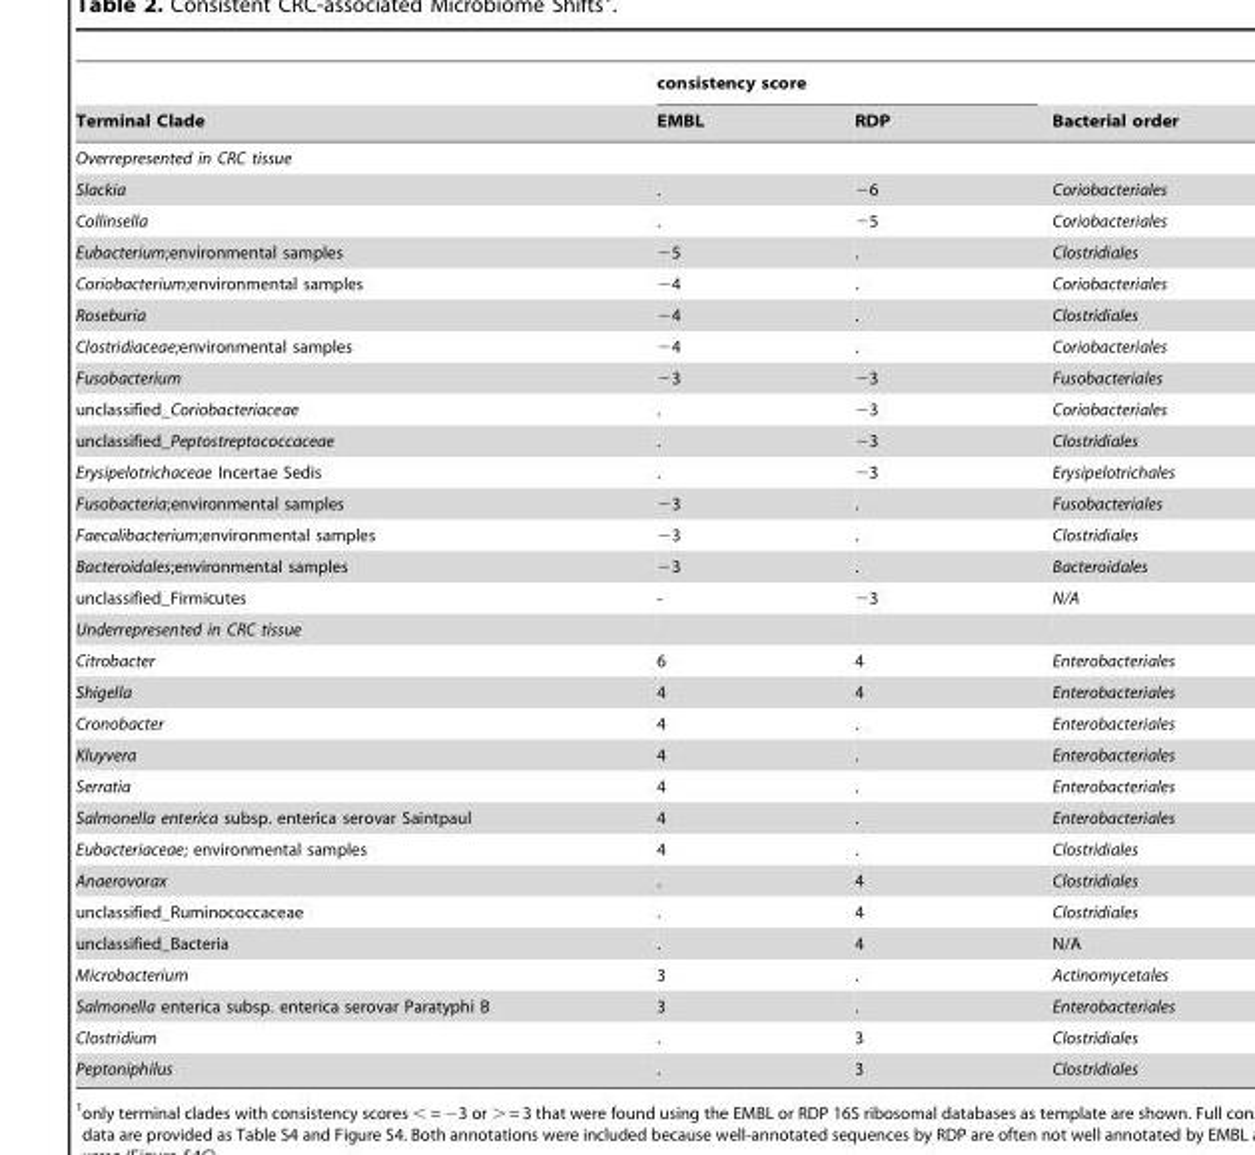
<table><thead><tr><td rowspan="2">Terminal Clade</td><td colspan="2">consistency score</td><td rowspan="2">Bacterial order</td></tr><tr><td>EMBL</td><td>RDP</td></tr></thead><tbody><tr><td colspan="4">Overrepresented in CRC tissue</td></tr><tr><td>Slackia</td><td>.</td><td>−6</td><td>Coriobacteriales</td></tr><tr><td>Collinsella</td><td>.</td><td>−5</td><td>Coriobacteriales</td></tr><tr><td>Eubacterium;environmental samples</td><td>−5</td><td>.</td><td>Clostridiales</td></tr><tr><td>Coriobacterium;environmental samples</td><td>−4</td><td>.</td><td>Coriobacteriales</td></tr><tr><td>Roseburia</td><td>−4</td><td>.</td><td>Clostridiales</td></tr><tr><td>Clostridiaceae;environmental samples</td><td>−4</td><td>.</td><td>Coriobacteriales</td></tr><tr><td>Fusobacterium</td><td>−3</td><td>−3</td><td>Fusobacteriales</td></tr><tr><td>unclassified_Coriobacteriaceae</td><td>.</td><td>−3</td><td>Coriobacteriales</td></tr><tr><td>unclassified_Peptostreptococcaceae</td><td>.</td><td>−3</td><td>Clostridiales</td></tr><tr><td>Erysipelotrichaceae Incertae Sedis</td><td>.</td><td>−3</td><td>Erysipelotrichales</td></tr><tr><td>Fusobacteria;environmental samples</td><td>−3</td><td>.</td><td>Fusobacteriales</td></tr><tr><td>Faecalibacterium;environmental samples</td><td>−3</td><td>.</td><td>Clostridiales</td></tr><tr><td>Bacteroidales;environmental samples</td><td>−3</td><td>.</td><td>Bacteroidales</td></tr><tr><td>unclassified_Firmicutes</td><td>-</td><td>−3</td><td>N/A</td></tr><tr><td colspan="4">Underrepresented in CRC tissue</td></tr><tr><td>Citrobacter</td><td>6</td><td>4</td><td>Enterobacteriales</td></tr><tr><td>Shigella</td><td>4</td><td>4</td><td>Enterobacteriales</td></tr><tr><td>Cronobacter</td><td>4</td><td>.</td><td>Enterobacteriales</td></tr><tr><td>Kluyvera</td><td>4</td><td>.</td><td>Enterobacteriales</td></tr><tr><td>Serratia</td><td>4</td><td>.</td><td>Enterobacteriales</td></tr><tr><td>Salmonella enterica subsp. enterica serovar Saintpaul</td><td>4</td><td>.</td><td>Enterobacteriales</td></tr><tr><td>Eubacteriaceae; environmental samples</td><td>4</td><td>.</td><td>Clostridiales</td></tr><tr><td>Anaerovorax</td><td>.</td><td>4</td><td>Clostridiales</td></tr><tr><td>unclassified_Ruminococcaceae</td><td>.</td><td>4</td><td>Clostridiales</td></tr><tr><td>unclassified_Bacteria</td><td>.</td><td>4</td><td>N/A</td></tr><tr><td>Microbacterium</td><td>3</td><td>.</td><td>Actinomycetales</td></tr><tr><td>Salmonella enterica subsp. enterica serovar Paratyphi B</td><td>3</td><td>.</td><td>Enterobacteriales</td></tr><tr><td>Clostridium</td><td>.</td><td>3</td><td>Clostridiales</td></tr><tr><td>Peptoniphilus</td><td>.</td><td>3</td><td>Clostridiales</td></tr></tbody></table>